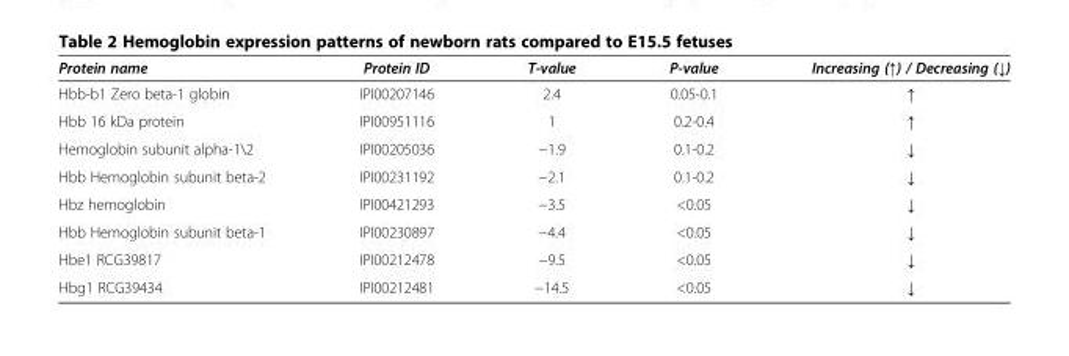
<table><thead><tr><td>Protein name</td><td>Protein ID</td><td>T-value</td><td>P-value</td><td>Increasing (↑) / Decreasing (↓)</td></tr></thead><tbody><tr><td>Hbb-b1 Zero beta-1 globin</td><td>IPI00207146</td><td>2.4</td><td>0.05-0.1</td><td>↑</td></tr><tr><td>Hbb 16 kDa protein</td><td>IPI00951116</td><td>1</td><td>0.2-0.4</td><td>↑</td></tr><tr><td>Hemoglobin subunit alpha-1\2</td><td>IPI00205036</td><td>−1.9</td><td>0.1-0.2</td><td>↓</td></tr><tr><td>Hbb Hemoglobin subunit beta-2</td><td>IPI00231192</td><td>−2.1</td><td>0.1-0.2</td><td>↓</td></tr><tr><td>Hbz hemoglobin</td><td>IPI00421293</td><td>−3.5</td><td>&lt;0.05</td><td>↓</td></tr><tr><td>Hbb Hemoglobin subunit beta-1</td><td>IPI00230897</td><td>−4.4</td><td>&lt;0.05</td><td>↓</td></tr><tr><td>Hbe1 RCG39817</td><td>IPI00212478</td><td>−9.5</td><td>&lt;0.05</td><td>↓</td></tr><tr><td>Hbg1 RCG39434</td><td>IPI00212481</td><td>−14.5</td><td>&lt;0.05</td><td>↓</td></tr></tbody></table>